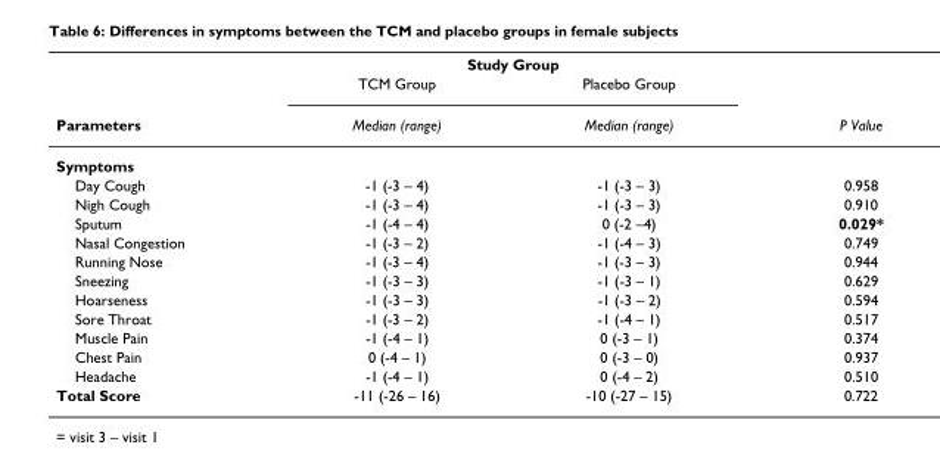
<table><thead><tr><td rowspan="3">Parameters</td><td colspan="2">Study Group</td><td rowspan="3">P Value</td></tr><tr><td rowspan="2">TCM Group Median (range)</td><td rowspan="2">Placebo Group Median (range)</td></tr><tr></tr></thead><tbody><tr><td colspan="4">Symptoms</td></tr><tr><td>Day Cough</td><td>-1 (-3 – 4)</td><td>-1 (-3 – 3)</td><td>0.958</td></tr><tr><td>Nigh Cough</td><td>-1 (-3 – 4)</td><td>-1 (-3 – 3)</td><td>0.910</td></tr><tr><td>Sputum</td><td>-1 (-4 – 4)</td><td>0 (-2 –4)</td><td>0.029*</td></tr><tr><td>Nasal Congestion</td><td>-1 (-3 – 2)</td><td>-1 (-4 – 3)</td><td>0.749</td></tr><tr><td>Running Nose</td><td>-1 (-3 – 4)</td><td>-1 (-3 – 3)</td><td>0.944</td></tr><tr><td>Sneezing</td><td>-1 (-3 – 3)</td><td>-1 (-3 – 1)</td><td>0.629</td></tr><tr><td>Hoarseness</td><td>-1 (-3 – 3)</td><td>-1 (-3 – 2)</td><td>0.594</td></tr><tr><td>Sore Throat</td><td>-1 (-3 – 2)</td><td>-1 (-4 – 1)</td><td>0.517</td></tr><tr><td>Muscle Pain</td><td>-1 (-4 – 1)</td><td>0 (-3 – 1)</td><td>0.374</td></tr><tr><td>Chest Pain</td><td>0 (-4 – 1)</td><td>0 (-3 – 0)</td><td>0.937</td></tr><tr><td>Headache</td><td>-1 (-4 – 1)</td><td>0 (-4 – 2)</td><td>0.510</td></tr><tr><td>Total Score</td><td>-11 (-26 – 16)</td><td>-10 (-27 – 15)</td><td>0.722</td></tr></tbody></table>